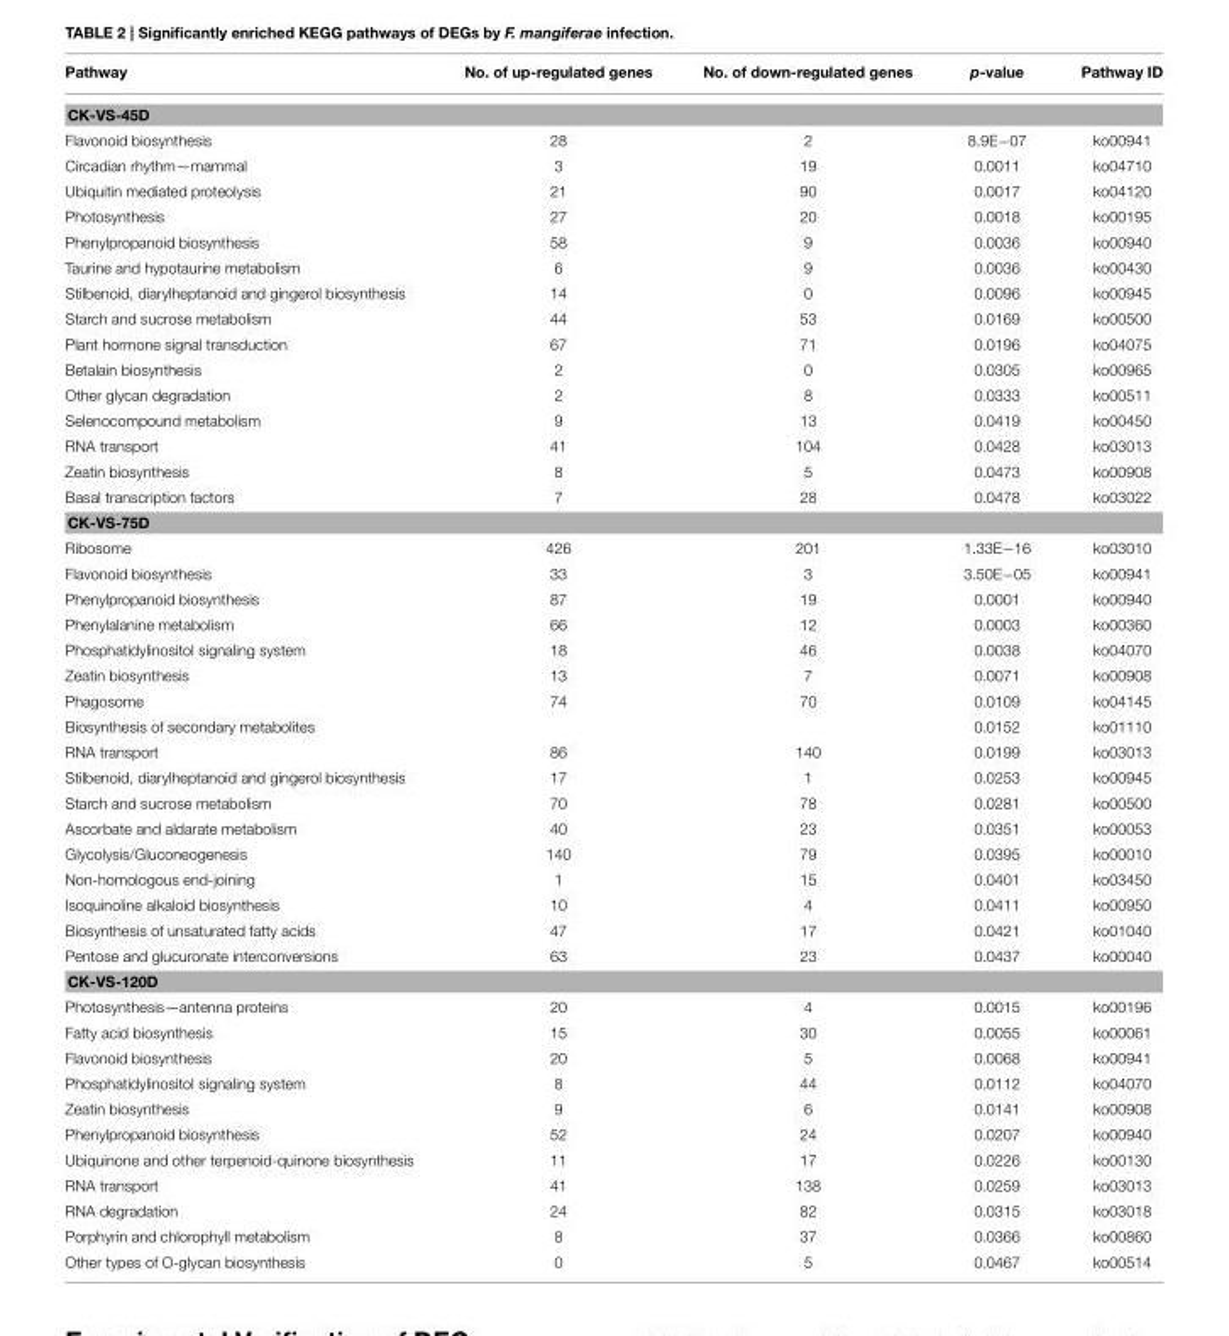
<table><thead><tr><td>Pathway</td><td>No. of up-regulated genes</td><td>No. of down-regulated genes</td><td>p-value</td><td>Pathway ID</td></tr></thead><tbody><tr><td colspan="5">CK-VS-45D</td></tr><tr><td>Flavonoid biosynthesis</td><td>28</td><td>2</td><td>8.9E−07</td><td>ko00941</td></tr><tr><td>Circadian rhythm—mammal</td><td>3</td><td>19</td><td>0.0011</td><td>ko04710</td></tr><tr><td>Ubiquitin mediated proteolysis</td><td>21</td><td>90</td><td>0.0017</td><td>ko04120</td></tr><tr><td>Photosynthesis</td><td>27</td><td>20</td><td>0.0018</td><td>ko00195</td></tr><tr><td>Phenylpropanoid biosynthesis</td><td>58</td><td>9</td><td>0.0036</td><td>ko00940</td></tr><tr><td>Taurine and hypotaurine metabolism</td><td>6</td><td>9</td><td>0.0036</td><td>ko00430</td></tr><tr><td>Stilbenoid, diarylheptanoid and gingerol biosynthesis</td><td>14</td><td>0</td><td>0.0096</td><td>ko00945</td></tr><tr><td>Starch and sucrose metabolism</td><td>44</td><td>53</td><td>0.0169</td><td>ko00500</td></tr><tr><td>Plant hormone signal transduction</td><td>67</td><td>71</td><td>0.0196</td><td>ko04075</td></tr><tr><td>Betalain biosynthesis</td><td>2</td><td>0</td><td>0.0305</td><td>ko00965</td></tr><tr><td>Other glycan degradation</td><td>2</td><td>8</td><td>0.0333</td><td>ko00511</td></tr><tr><td>Selenocompound metabolism</td><td>9</td><td>13</td><td>0.0419</td><td>ko00450</td></tr><tr><td>RNA transport</td><td>41</td><td>104</td><td>0.0428</td><td>ko03013</td></tr><tr><td>Zeatin biosynthesis</td><td>8</td><td>5</td><td>0.0473</td><td>ko00908</td></tr><tr><td>Basal transcription factors</td><td>7</td><td>28</td><td>0.0478</td><td>ko03022</td></tr><tr><td colspan="5">CK-VS-75D</td></tr><tr><td>Ribosome</td><td>426</td><td>201</td><td>1.33E−16</td><td>ko03010</td></tr><tr><td>Flavonoid biosynthesis</td><td>33</td><td>3</td><td>3.50E−05</td><td>ko00941</td></tr><tr><td>Phenylpropanoid biosynthesis</td><td>87</td><td>19</td><td>0.0001</td><td>ko00940</td></tr><tr><td>Phenylalanine metabolism</td><td>66</td><td>12</td><td>0.0003</td><td>ko00360</td></tr><tr><td>Phosphatidylinositol signaling system</td><td>18</td><td>46</td><td>0.0038</td><td>ko04070</td></tr><tr><td>Zeatin biosynthesis</td><td>13</td><td>7</td><td>0.0071</td><td>ko00908</td></tr><tr><td>Phagosome</td><td>74</td><td>70</td><td>0.0109</td><td>ko04145</td></tr><tr><td>Biosynthesis of secondary metabolites</td><td></td><td></td><td>0.0152</td><td>ko01110</td></tr><tr><td>RNA transport</td><td>86</td><td>140</td><td>0.0199</td><td>ko03013</td></tr><tr><td>Stilbenoid, diarylheptanoid and gingerol biosynthesis</td><td>17</td><td>1</td><td>0.0253</td><td>ko00945</td></tr><tr><td>Starch and sucrose metabolism</td><td>70</td><td>78</td><td>0.0281</td><td>ko00500</td></tr><tr><td>Ascorbate and aldarate metabolism</td><td>40</td><td>23</td><td>0.0351</td><td>ko00053</td></tr><tr><td>Glycolysis/Gluconeogenesis</td><td>140</td><td>79</td><td>0.0395</td><td>ko00010</td></tr><tr><td>Non-homologous end-joining</td><td>1</td><td>15</td><td>0.0401</td><td>ko03450</td></tr><tr><td>Isoquinoline alkaloid biosynthesis</td><td>10</td><td>4</td><td>0.0411</td><td>ko00950</td></tr><tr><td>Biosynthesis of unsaturated fatty acids</td><td>47</td><td>17</td><td>0.0421</td><td>ko01040</td></tr><tr><td>Pentose and glucuronate interconversions</td><td>63</td><td>23</td><td>0.0437</td><td>ko00040</td></tr><tr><td colspan="5">CK-VS-120D</td></tr><tr><td>Photosynthesis—antenna proteins</td><td>20</td><td>4</td><td>0.0015</td><td>ko00196</td></tr><tr><td>Fatty acid biosynthesis</td><td>15</td><td>30</td><td>0.0055</td><td>ko00061</td></tr><tr><td>Flavonoid biosynthesis</td><td>20</td><td>5</td><td>0.0068</td><td>ko00941</td></tr><tr><td>Phosphatidylinositol signaling system</td><td>8</td><td>44</td><td>0.0112</td><td>ko04070</td></tr><tr><td>Zeatin biosynthesis</td><td>9</td><td>6</td><td>0.0141</td><td>ko00908</td></tr><tr><td>Phenylpropanoid biosynthesis</td><td>52</td><td>24</td><td>0.0207</td><td>ko00940</td></tr><tr><td>Ubiquinone and other terpenoid-quinone biosynthesis</td><td>11</td><td>17</td><td>0.0226</td><td>ko00130</td></tr><tr><td>RNA transport</td><td>41</td><td>138</td><td>0.0259</td><td>ko03013</td></tr><tr><td>RNA degradation</td><td>24</td><td>82</td><td>0.0315</td><td>ko03018</td></tr><tr><td>Porphyrin and chlorophyll metabolism</td><td>8</td><td>37</td><td>0.0366</td><td>ko00860</td></tr><tr><td>Other types of O-glycan biosynthesis</td><td>0</td><td>5</td><td>0.0467</td><td>ko00514</td></tr></tbody></table>